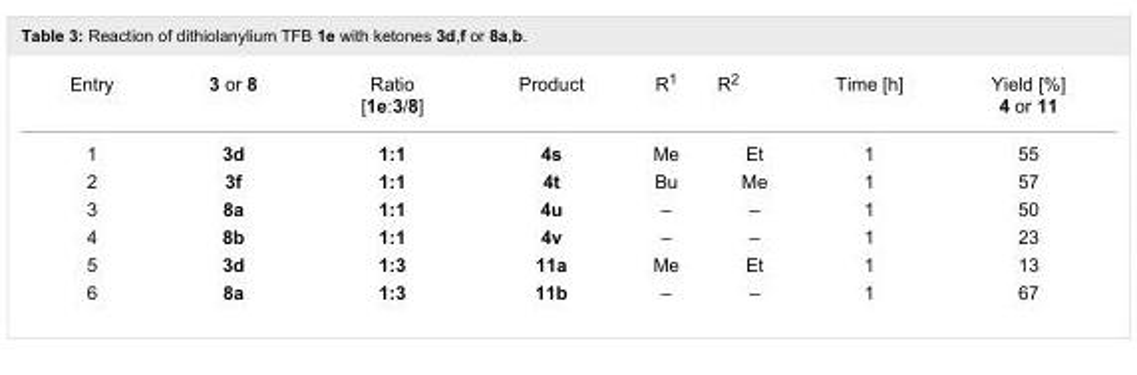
<table><tbody><tr><td>Entry</td><td>3 or 8</td><td>Ratio [1e:3/8]</td><td>Product</td><td>R<sup>1</sup></td><td>R<sup>2</sup></td><td>Time [h]</td><td>Yield [%] 4 or 11</td></tr><tr><td>1</td><td>3d</td><td>1:1</td><td>4s</td><td>Me</td><td>Et</td><td>1</td><td>55</td></tr><tr><td>2</td><td>3f</td><td>1:1</td><td>4t</td><td>Bu</td><td>Me</td><td>1</td><td>57</td></tr><tr><td>3</td><td>8a</td><td>1:1</td><td>4u</td><td>–</td><td>–</td><td>1</td><td>50</td></tr><tr><td>4</td><td>8b</td><td>1:1</td><td>4v</td><td>–</td><td>–</td><td>1</td><td>23</td></tr><tr><td>5</td><td>3d</td><td>1:3</td><td>11a</td><td>Me</td><td>Et</td><td>1</td><td>13</td></tr><tr><td>6</td><td>8a</td><td>1:3</td><td>11b</td><td>–</td><td>–</td><td>1</td><td>67</td></tr></tbody></table>